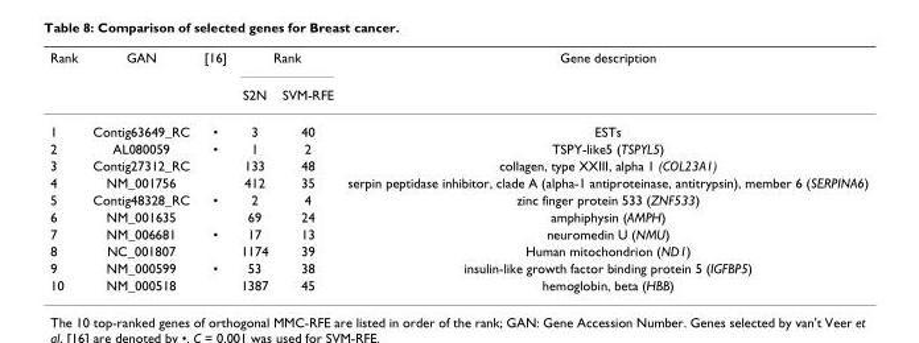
<table><thead><tr><td rowspan="2">Rank</td><td rowspan="2">GAN</td><td rowspan="2">[16]</td><td colspan="2">Rank</td><td rowspan="2">Gene description</td></tr><tr><td>S2N</td><td>SVM-RFE</td></tr></thead><tbody><tr><td>1</td><td>Contig63649_RC</td><td>•</td><td>3</td><td>40</td><td>ESTs</td></tr><tr><td>2</td><td>AL080059</td><td>•</td><td>1</td><td>2</td><td>TSPY-like5 (TSPYL5)</td></tr><tr><td>3</td><td>Contig27312_RC</td><td></td><td>133</td><td>48</td><td>collagen, type XXIII, alpha 1 (COL23A1)</td></tr><tr><td>4</td><td>NM_001756</td><td></td><td>412</td><td>35</td><td>serpin peptidase inhibitor, clade A (alpha-1 antiproteinase, antitrypsin), member 6 (SERPINA6)</td></tr><tr><td>5</td><td>Contig48328_RC</td><td>•</td><td>2</td><td>4</td><td>zinc finger protein 533 (ZNF533)</td></tr><tr><td>6</td><td>NM_001635</td><td></td><td>69</td><td>24</td><td>amphiphysin (AMPH)</td></tr><tr><td>7</td><td>NM_006681</td><td>•</td><td>17</td><td>13</td><td>neuromedin U (NMU)</td></tr><tr><td>8</td><td>NC_001807</td><td></td><td>1174</td><td>39</td><td>Human mitochondrion (ND1)</td></tr><tr><td>9</td><td>NM_000599</td><td>•</td><td>53</td><td>38</td><td>insulin-like growth factor binding protein 5 (IGFBP5)</td></tr><tr><td>10</td><td>NM_000518</td><td></td><td>1387</td><td>45</td><td>hemoglobin, beta (HBB)</td></tr></tbody></table>